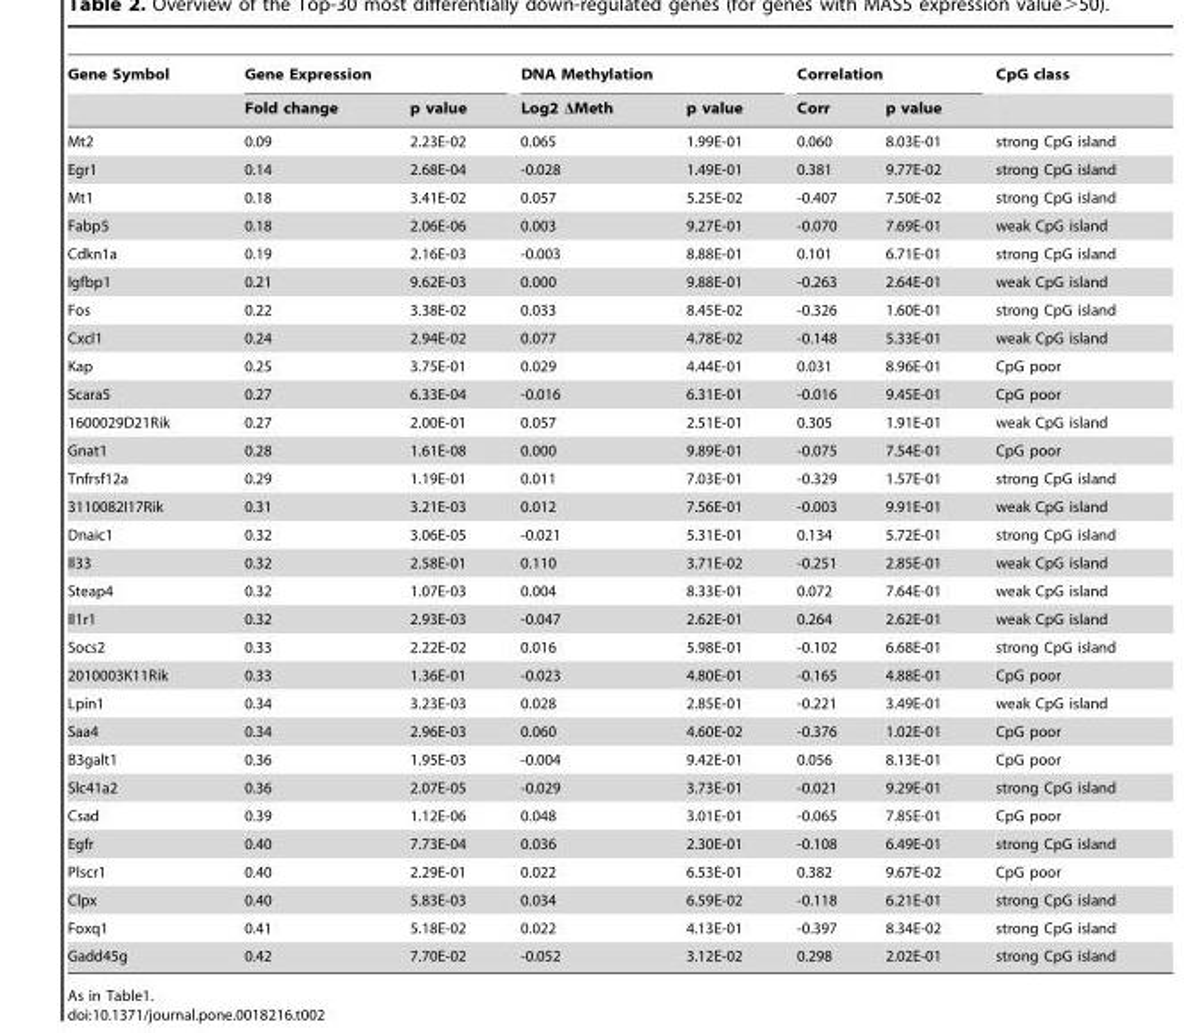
<table><thead><tr><td rowspan="2">Gene Symbol</td><td colspan="2">Gene Expression</td><td colspan="2">DNA Methylation</td><td colspan="2">Correlation</td><td rowspan="2">CpG class</td></tr><tr><td>Fold change</td><td>p value</td><td>Log2 ΔMeth</td><td>p value</td><td>Corr</td><td>p value</td></tr></thead><tbody><tr><td>Mt2</td><td>0.09</td><td>2.23E-02</td><td>0.065</td><td>1.99E-01</td><td>0.060</td><td>8.03E-01</td><td>strong CpG island</td></tr><tr><td>Egr1</td><td>0.14</td><td>2.68E-04</td><td>-0.028</td><td>1.49E-01</td><td>0.381</td><td>9.77E-02</td><td>strong CpG island</td></tr><tr><td>Mt1</td><td>0.18</td><td>3.41E-02</td><td>0.057</td><td>5.25E-02</td><td>-0.407</td><td>7.50E-02</td><td>strong CpG island</td></tr><tr><td>Fabp5</td><td>0.18</td><td>2.06E-06</td><td>0.003</td><td>9.27E-01</td><td>-0.070</td><td>7.69E-01</td><td>weak CpG island</td></tr><tr><td>Cdkn1a</td><td>0.19</td><td>2.16E-03</td><td>-0.003</td><td>8.88E-01</td><td>0.101</td><td>6.71E-01</td><td>strong CpG island</td></tr><tr><td>Igfbp1</td><td>0.21</td><td>9.62E-03</td><td>0.000</td><td>9.88E-01</td><td>-0.263</td><td>2.64E-01</td><td>weak CpG island</td></tr><tr><td>Fos</td><td>0.22</td><td>3.38E-02</td><td>0.033</td><td>8.45E-02</td><td>-0.326</td><td>1.60E-01</td><td>strong CpG island</td></tr><tr><td>Cxcl1</td><td>0.24</td><td>2.94E-02</td><td>0.077</td><td>4.78E-02</td><td>-0.148</td><td>5.33E-01</td><td>weak CpG island</td></tr><tr><td>Kap</td><td>0.25</td><td>3.75E-01</td><td>0.029</td><td>4.44E-01</td><td>0.031</td><td>8.96E-01</td><td>CpG poor</td></tr><tr><td>Scara5</td><td>0.27</td><td>6.33E-04</td><td>-0.016</td><td>6.31E-01</td><td>-0.016</td><td>9.45E-01</td><td>CpG poor</td></tr><tr><td>1600029D21Rik</td><td>0.27</td><td>2.00E-01</td><td>0.057</td><td>2.51E-01</td><td>0.305</td><td>1.91E-01</td><td>weak CpG island</td></tr><tr><td>Gnat1</td><td>0.28</td><td>1.61E-08</td><td>0.000</td><td>9.89E-01</td><td>-0.075</td><td>7.54E-01</td><td>CpG poor</td></tr><tr><td>Tnfrsf12a</td><td>0.29</td><td>1.19E-01</td><td>0.011</td><td>7.03E-01</td><td>-0.329</td><td>1.57E-01</td><td>strong CpG island</td></tr><tr><td>3110082I17Rik</td><td>0.31</td><td>3.21E-03</td><td>0.012</td><td>7.56E-01</td><td>-0.003</td><td>9.91E-01</td><td>weak CpG island</td></tr><tr><td>Dnaic1</td><td>0.32</td><td>3.06E-05</td><td>-0.021</td><td>5.31E-01</td><td>0.134</td><td>5.72E-01</td><td>strong CpG island</td></tr><tr><td>Il33</td><td>0.32</td><td>2.58E-01</td><td>0.110</td><td>3.71E-02</td><td>-0.251</td><td>2.85E-01</td><td>weak CpG island</td></tr><tr><td>Steap4</td><td>0.32</td><td>1.07E-03</td><td>0.004</td><td>8.33E-01</td><td>0.072</td><td>7.64E-01</td><td>weak CpG island</td></tr><tr><td>Il1r1</td><td>0.32</td><td>2.93E-03</td><td>-0.047</td><td>2.62E-01</td><td>0.264</td><td>2.62E-01</td><td>weak CpG island</td></tr><tr><td>Socs2</td><td>0.33</td><td>2.22E-02</td><td>0.016</td><td>5.98E-01</td><td>-0.102</td><td>6.68E-01</td><td>strong CpG island</td></tr><tr><td>2010003K11Rik</td><td>0.33</td><td>1.36E-01</td><td>-0.023</td><td>4.80E-01</td><td>-0.165</td><td>4.88E-01</td><td>CpG poor</td></tr><tr><td>Lpin1</td><td>0.34</td><td>3.23E-03</td><td>0.028</td><td>2.85E-01</td><td>-0.221</td><td>3.49E-01</td><td>weak CpG island</td></tr><tr><td>Saa4</td><td>0.34</td><td>2.96E-03</td><td>0.060</td><td>4.60E-02</td><td>-0.376</td><td>1.02E-01</td><td>CpG poor</td></tr><tr><td>B3galt1</td><td>0.36</td><td>1.95E-03</td><td>-0.004</td><td>9.42E-01</td><td>0.056</td><td>8.13E-01</td><td>CpG poor</td></tr><tr><td>Slc41a2</td><td>0.36</td><td>2.07E-05</td><td>-0.029</td><td>3.73E-01</td><td>-0.021</td><td>9.29E-01</td><td>strong CpG island</td></tr><tr><td>Csad</td><td>0.39</td><td>1.12E-06</td><td>0.048</td><td>3.01E-01</td><td>-0.065</td><td>7.85E-01</td><td>CpG poor</td></tr><tr><td>Egfr</td><td>0.40</td><td>7.73E-04</td><td>0.036</td><td>2.30E-01</td><td>-0.108</td><td>6.49E-01</td><td>strong CpG island</td></tr><tr><td>Plscr1</td><td>0.40</td><td>2.29E-01</td><td>0.022</td><td>6.53E-01</td><td>0.382</td><td>9.67E-02</td><td>CpG poor</td></tr><tr><td>Clpx</td><td>0.40</td><td>5.83E-03</td><td>0.034</td><td>6.59E-02</td><td>-0.118</td><td>6.21E-01</td><td>strong CpG island</td></tr><tr><td>Foxq1</td><td>0.41</td><td>5.18E-02</td><td>0.022</td><td>4.13E-01</td><td>-0.397</td><td>8.34E-02</td><td>strong CpG island</td></tr><tr><td>Gadd45g</td><td>0.42</td><td>7.70E-02</td><td>-0.052</td><td>3.12E-02</td><td>0.298</td><td>2.02E-01</td><td>strong CpG island</td></tr></tbody></table>